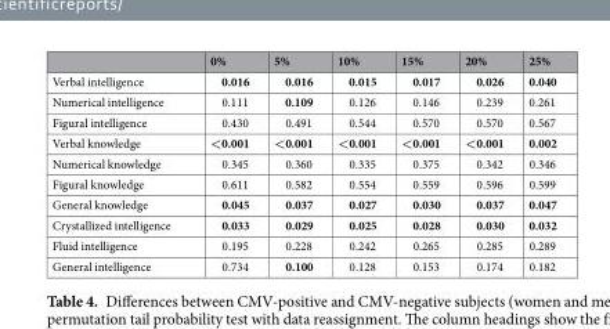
<table><thead><tr><td></td><td>0%</td><td>5%</td><td>10%</td><td>15%</td><td>20%</td><td>25%</td></tr></thead><tbody><tr><td>Verbal intelligence</td><td>0.016</td><td>0.016</td><td>0.015</td><td>0.017</td><td>0.026</td><td>0.040</td></tr><tr><td>Numerical intelligence</td><td>0.111</td><td>0.109</td><td>0.126</td><td>0.146</td><td>0.239</td><td>0.261</td></tr><tr><td>Figural intelligence</td><td>0.430</td><td>0.491</td><td>0.544</td><td>0.570</td><td>0.570</td><td>0.567</td></tr><tr><td>Verbal knowledge</td><td>&lt;0.001</td><td>&lt;0.001</td><td>&lt;0.001</td><td>&lt;0.001</td><td>&lt;0.001</td><td>0.002</td></tr><tr><td>Numerical knowledge</td><td>0.345</td><td>0.360</td><td>0.335</td><td>0.375</td><td>0.342</td><td>0.346</td></tr><tr><td>Figural knowledge</td><td>0.611</td><td>0.582</td><td>0.554</td><td>0.559</td><td>0.596</td><td>0.599</td></tr><tr><td>General knowledge</td><td>0.045</td><td>0.037</td><td>0.027</td><td>0.030</td><td>0.037</td><td>0.047</td></tr><tr><td>Crystallized intelligence</td><td>0.033</td><td>0.029</td><td>0.025</td><td>0.028</td><td>0.030</td><td>0.032</td></tr><tr><td>Fluid intelligence</td><td>0.195</td><td>0.228</td><td>0.242</td><td>0.265</td><td>0.285</td><td>0.289</td></tr><tr><td>General intelligence</td><td>0.734</td><td>0.100</td><td>0.128</td><td>0.153</td><td>0.174</td><td>0.182</td></tr></tbody></table>